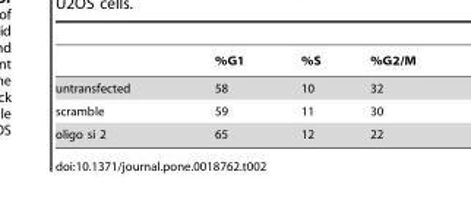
<table><thead><tr><td></td><td>%G1</td><td>%S</td><td>%G2/M</td></tr></thead><tbody><tr><td>untransfected</td><td>58</td><td>10</td><td>32</td></tr><tr><td>scramble</td><td>59</td><td>11</td><td>30</td></tr><tr><td>oligo si 2</td><td>65</td><td>12</td><td>22</td></tr></tbody></table>